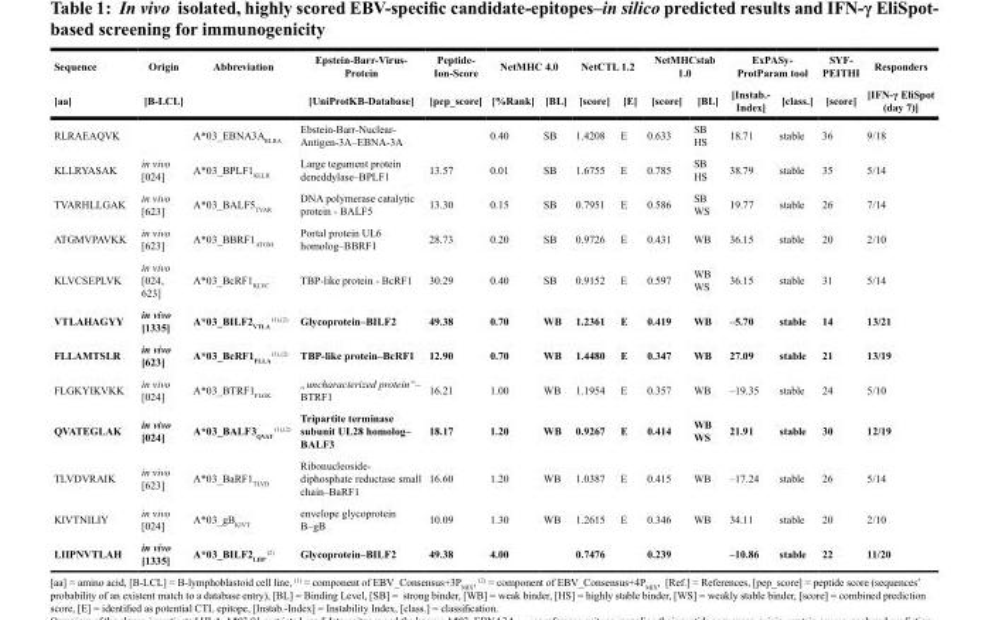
<table><thead><tr><td rowspan="2">Sequence [aa]</td><td rowspan="2">Origin [B-LCL]</td><td rowspan="2">Abbreviation</td><td rowspan="2">Epstein-Barr-Virus- Protein [UniProtKB-Database]</td><td rowspan="2">Peptide- Ion-Score [pep_score]</td><td colspan="2">NetMHC 4.0</td><td colspan="2">NetCTL 1.2</td><td colspan="2">NetMHCstab 1.0</td><td colspan="2">ExPASy- ProtParam tool</td><td rowspan="2">SYF- PEITHI [score]</td><td rowspan="2">Responders [IFN-γ EliSpot (day 7)]</td></tr><tr><td>[%Rank]</td><td>[BL]</td><td>[score]</td><td>[E]</td><td>[score]</td><td>[BL]</td><td>[Instab.- Index]</td><td>[class.]</td></tr></thead><tbody><tr><td>RLRAEAQVK</td><td></td><td>A*03_EBNA3A<sub>RLRA</sub></td><td>Ebstein-Barr-Nuclear- Antigen-3A–EBNA-3A</td><td></td><td>0.40</td><td>SB</td><td>1.4208</td><td>E</td><td>0.633</td><td>SB HS</td><td>18.71</td><td>stable</td><td>36</td><td>9/18</td></tr><tr><td>KLLRYASAK</td><td>in vivo [024]</td><td>A*03_BPLF1<sub>KLLR</sub></td><td>Large tegument protein deneddylase–BPLF1</td><td>13.57</td><td>0.01</td><td>SB</td><td>1.6755</td><td>E</td><td>0.785</td><td>SB HS</td><td>38.79</td><td>stable</td><td>35</td><td>5/14</td></tr><tr><td>TVARHLLGAK</td><td>in vivo [623]</td><td>A*03_BALF5<sub>TVAR</sub></td><td>DNA polymerase catalytic protein - BALF5</td><td>13.30</td><td>0.15</td><td>SB</td><td>0.7951</td><td>E</td><td>0.586</td><td>SB WS</td><td>19.77</td><td>stable</td><td>26</td><td>7/14</td></tr><tr><td>ATGMVPAVKK</td><td>in vivo [623]</td><td>A*03_BBRF1<sub>ATGM</sub></td><td>Portal protein UL6 homolog–BBRF1</td><td>28.73</td><td>0.20</td><td>SB</td><td>0.9726</td><td>E</td><td>0.431</td><td>WB</td><td>36.15</td><td>stable</td><td>20</td><td>2/10</td></tr><tr><td>KLVCSEPLVK</td><td>in vivo [024, 623]</td><td>A*03_BcRF1<sub>KLVC</sub></td><td>TBP-like protein - BcRF1</td><td>30.29</td><td>0.40</td><td>SB</td><td>0.9152</td><td>E</td><td>0.597</td><td>WB WS</td><td>36.15</td><td>stable</td><td>31</td><td>5/14</td></tr><tr><td>VTLAHAGYY</td><td>in vivo [1335]</td><td>A*03_BILF2<sub>VTLA</sub> <sup>(1),(2)</sup></td><td>Glycoprotein–BILF2</td><td>49.38</td><td>0.70</td><td>WB</td><td>1.2361</td><td>E</td><td>0.419</td><td>WB</td><td>–5.70</td><td>stable</td><td>14</td><td>13/21</td></tr><tr><td>FLLAMTSLR</td><td>in vivo [623]</td><td>A*03_BcRF1<sub>FLLA</sub> <sup>(1),(2)</sup></td><td>TBP-like protein–BcRF1</td><td>12.90</td><td>0.70</td><td>WB</td><td>1.4480</td><td>E</td><td>0.347</td><td>WB</td><td>27.09</td><td>stable</td><td>21</td><td>13/19</td></tr><tr><td>FLGKYIKVKK</td><td>in vivo [024]</td><td>A*03_BTRF1<sub>FLGK</sub></td><td>„uncharacterized protein“– BTRF1</td><td>16.21</td><td>1.00</td><td>WB</td><td>1.1954</td><td>E</td><td>0.357</td><td>WB</td><td>–19.35</td><td>stable</td><td>24</td><td>5/10</td></tr><tr><td>QVATEGLAK</td><td>in vivo [024]</td><td>A*03_BALF3<sub>QVAT</sub> <sup>(1),(2)</sup></td><td>Tripartite terminase subunit UL28 homolog– BALF3</td><td>18.17</td><td>1.20</td><td>WB</td><td>0.9267</td><td>E</td><td>0.414</td><td>WB WS</td><td>21.91</td><td>stable</td><td>30</td><td>12/19</td></tr><tr><td>TLVDVRAIK</td><td>in vivo [623]</td><td>A*03_BaRF1<sub>TLVD</sub></td><td>Ribonucleoside- diphosphate reductase small chain–BaRF1</td><td>16.60</td><td>1.20</td><td>WB</td><td>1.0387</td><td>E</td><td>0.415</td><td>WB</td><td>–17.24</td><td>stable</td><td>26</td><td>5/14</td></tr><tr><td>KIVTNILIY</td><td>in vivo [024]</td><td>A*03_gB<sub>KIVT</sub></td><td>envelope glycoprotein B–gB</td><td>10.09</td><td>1.30</td><td>WB</td><td>1.2615</td><td>E</td><td>0.346</td><td>WB</td><td>34.11</td><td>stable</td><td>20</td><td>2/10</td></tr><tr><td>LIIPNVTLAH</td><td>in vivo [1335]</td><td>A*03_BILF2<sub>LIIP</sub> <sup>(2)</sup></td><td>Glycoprotein–BILF2</td><td>49.38</td><td>4.00</td><td></td><td>0.7476</td><td></td><td>0.239</td><td></td><td>–10.86</td><td>stable</td><td>22</td><td>11/20</td></tr></tbody></table>